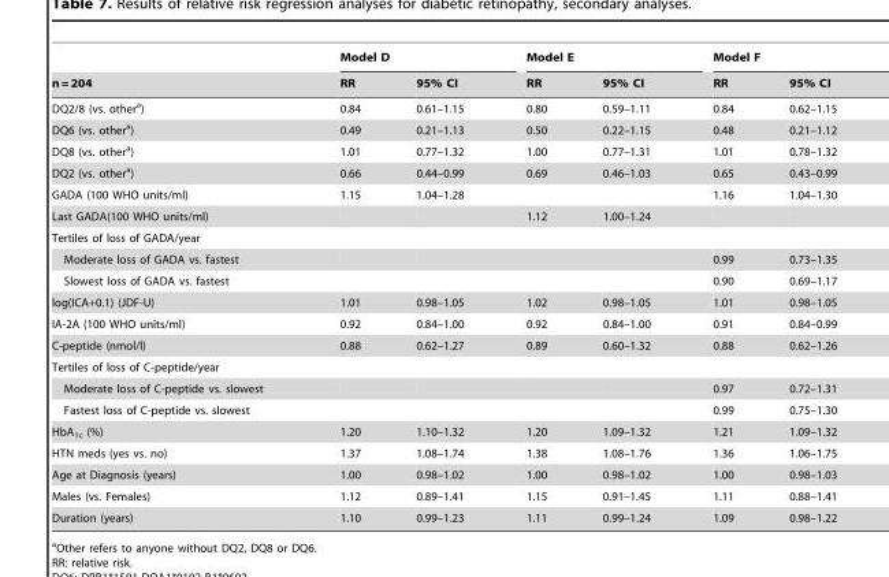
<table><thead><tr><td rowspan="2">n = 204</td><td colspan="2">Model D</td><td colspan="2">Model E</td><td colspan="2">Model F</td></tr><tr><td>RR</td><td>95% CI</td><td>RR</td><td>95% CI</td><td>RR</td><td>95% CI</td></tr></thead><tbody><tr><td>DQ2/8 (vs. other<sup>a</sup>)</td><td>0.84</td><td>0.61–1.15</td><td>0.80</td><td>0.59–1.11</td><td>0.84</td><td>0.62–1.15</td></tr><tr><td>DQ6 (vs. other<sup>a</sup>)</td><td>0.49</td><td>0.21–1.13</td><td>0.50</td><td>0.22–1.15</td><td>0.48</td><td>0.21–1.12</td></tr><tr><td>DQ8 (vs. other<sup>a</sup>)</td><td>1.01</td><td>0.77–1.32</td><td>1.00</td><td>0.77–1.31</td><td>1.01</td><td>0.78–1.32</td></tr><tr><td>DQ2 (vs. other<sup>a</sup>)</td><td>0.66</td><td>0.44–0.99</td><td>0.69</td><td>0.46–1.03</td><td>0.65</td><td>0.43–0.99</td></tr><tr><td>GADA (100 WHO units/ml)</td><td>1.15</td><td>1.04–1.28</td><td></td><td></td><td>1.16</td><td>1.04–1.30</td></tr><tr><td>Last GADA(100 WHO units/ml)</td><td></td><td></td><td>1.12</td><td>1.00–1.24</td><td></td><td></td></tr><tr><td colspan="7">Tertiles of loss of GADA/year</td></tr><tr><td>Moderate loss of GADA vs. fastest</td><td></td><td></td><td></td><td></td><td>0.99</td><td>0.73–1.35</td></tr><tr><td>Slowest loss of GADA vs. fastest</td><td></td><td></td><td></td><td></td><td>0.90</td><td>0.69–1.17</td></tr><tr><td>log(ICA+0.1) (JDF-U)</td><td>1.01</td><td>0.98–1.05</td><td>1.02</td><td>0.98–1.05</td><td>1.01</td><td>0.98–1.05</td></tr><tr><td>IA-2A (100 WHO units/ml)</td><td>0.92</td><td>0.84–1.00</td><td>0.92</td><td>0.84–1.00</td><td>0.91</td><td>0.84–0.99</td></tr><tr><td>C-peptide (nmol/l)</td><td>0.88</td><td>0.62–1.27</td><td>0.89</td><td>0.60–1.32</td><td>0.88</td><td>0.62–1.26</td></tr><tr><td colspan="7">Tertiles of loss of C-peptide/year</td></tr><tr><td>Moderate loss of C-peptide vs. slowest</td><td></td><td></td><td></td><td></td><td>0.97</td><td>0.72–1.31</td></tr><tr><td>Fastest loss of C-peptide vs. slowest</td><td></td><td></td><td></td><td></td><td>0.99</td><td>0.75–1.30</td></tr><tr><td>HbA<sub>1c</sub> (%)</td><td>1.20</td><td>1.10–1.32</td><td>1.20</td><td>1.09–1.32</td><td>1.21</td><td>1.09–1.32</td></tr><tr><td>HTN meds (yes vs. no)</td><td>1.37</td><td>1.08–1.74</td><td>1.38</td><td>1.08–1.76</td><td>1.36</td><td>1.06–1.75</td></tr><tr><td>Age at Diagnosis (years)</td><td>1.00</td><td>0.98–1.02</td><td>1.00</td><td>0.98–1.02</td><td>1.00</td><td>0.98–1.03</td></tr><tr><td>Males (vs. Females)</td><td>1.12</td><td>0.89–1.41</td><td>1.15</td><td>0.91–1.45</td><td>1.11</td><td>0.88–1.41</td></tr><tr><td>Duration (years)</td><td>1.10</td><td>0.99–1.23</td><td>1.11</td><td>0.99–1.24</td><td>1.09</td><td>0.98–1.22</td></tr></tbody></table>